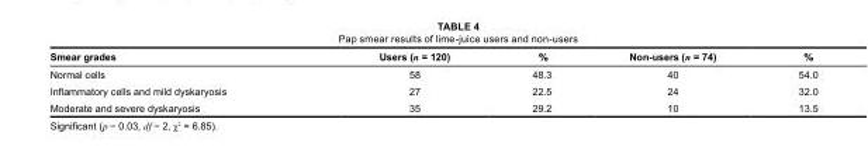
<table><thead><tr><td>Smear grades</td><td>Users (n = 120)</td><td>%</td><td>Non-users (n = 74)</td><td>%</td></tr></thead><tbody><tr><td>Normal cells</td><td>58</td><td>48.3</td><td>40</td><td>54.0</td></tr><tr><td>Inflammatory cells and mild dyskaryosis</td><td>27</td><td>22.5</td><td>24</td><td>32.0</td></tr><tr><td>Moderate and severe dyskaryosis</td><td>35</td><td>29.2</td><td>10</td><td>13.5</td></tr></tbody></table>